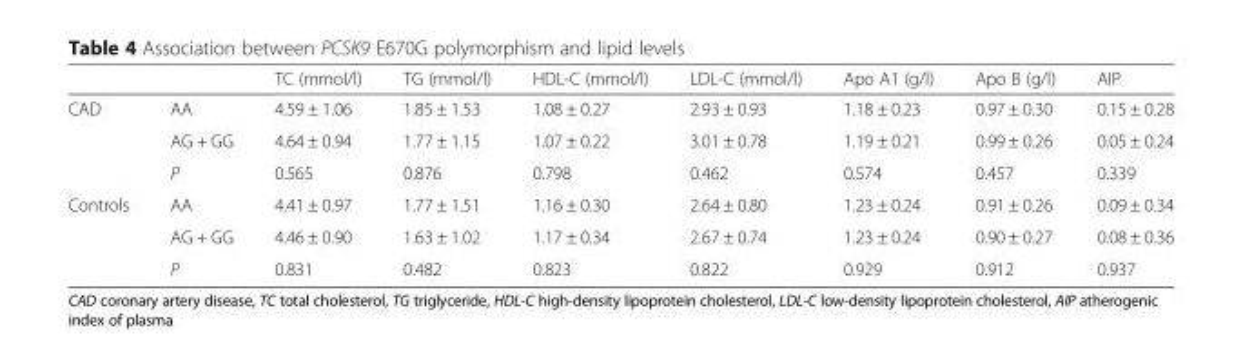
<table><thead><tr><td></td><td></td><td>TC (mmol/l)</td><td>TG (mmol/l)</td><td>HDL-C (mmol/l)</td><td>LDL-C (mmol/l)</td><td>Apo A1 (g/l)</td><td>Apo B (g/l)</td><td>AIP</td></tr></thead><tbody><tr><td rowspan="3">CAD</td><td>AA</td><td>4.59 ± 1.06</td><td>1.85 ± 1.53</td><td>1.08 ± 0.27</td><td>2.93 ± 0.93</td><td>1.18 ± 0.23</td><td>0.97 ± 0.30</td><td>0.15 ± 0.28</td></tr><tr><td>AG + GG</td><td>4.64 ± 0.94</td><td>1.77 ± 1.15</td><td>1.07 ± 0.22</td><td>3.01 ± 0.78</td><td>1.19 ± 0.21</td><td>0.99 ± 0.26</td><td>0.05 ± 0.24</td></tr><tr><td>P</td><td>0.565</td><td>0.876</td><td>0.798</td><td>0.462</td><td>0.574</td><td>0.457</td><td>0.339</td></tr><tr><td rowspan="3">Controls</td><td>AA</td><td>4.41 ± 0.97</td><td>1.77 ± 1.51</td><td>1.16 ± 0.30</td><td>2.64 ± 0.80</td><td>1.23 ± 0.24</td><td>0.91 ± 0.26</td><td>0.09 ± 0.34</td></tr><tr><td>AG + GG</td><td>4.46 ± 0.90</td><td>1.63 ± 1.02</td><td>1.17 ± 0.34</td><td>2.67 ± 0.74</td><td>1.23 ± 0.24</td><td>0.90 ± 0.27</td><td>0.08 ± 0.36</td></tr><tr><td>P</td><td>0.831</td><td>0.482</td><td>0.823</td><td>0.822</td><td>0.929</td><td>0.912</td><td>0.937</td></tr></tbody></table>